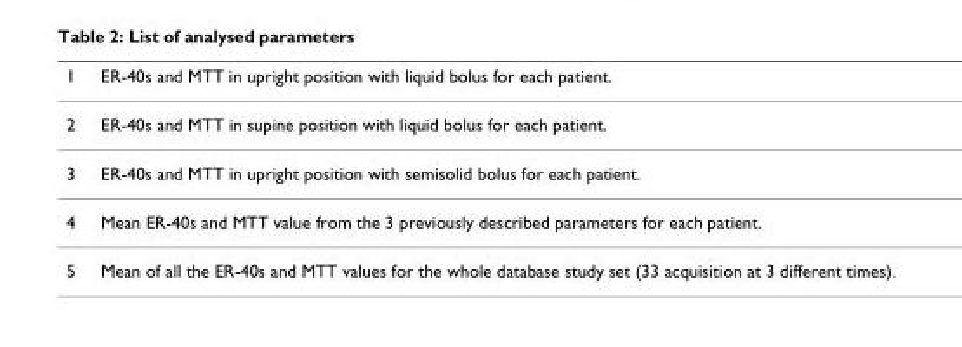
<table><thead><tr><td>1</td><td>ER-40s and MTT in upright position with liquid bolus for each patient.</td></tr></thead><tbody><tr><td>2</td><td>ER-40s and MTT in supine position with liquid bolus for each patient.</td></tr><tr><td>3</td><td>ER-40s and MTT in upright position with semisolid bolus for each patient.</td></tr><tr><td>4</td><td>Mean ER-40s and MTT value from the 3 previously described parameters for each patient.</td></tr><tr><td>5</td><td>Mean of all the ER-40s and MTT values for the whole database study set (33 acquisition at 3 different times).</td></tr></tbody></table>